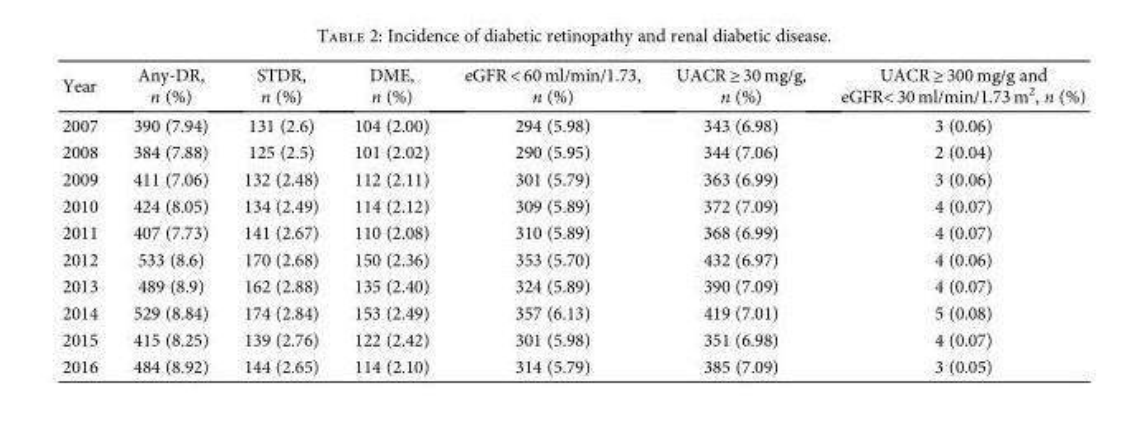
<table><thead><tr><td>Year</td><td>Any-DR, n (%)</td><td>STDR, n (%)</td><td>DME, n (%)</td><td>eGFR &lt; 60 ml/min/1.73, n (%)</td><td>UACR ≥ 30 mg/g, n (%)</td><td>UACR ≥ 300 mg/g and eGFR&lt; 30 ml/min/1.73 m<sup>2</sup>, n (%)</td></tr></thead><tbody><tr><td>2007</td><td>390 (7.94)</td><td>131 (2.6)</td><td>104 (2.00)</td><td>294 (5.98)</td><td>343 (6.98)</td><td>3 (0.06)</td></tr><tr><td>2008</td><td>384 (7.88)</td><td>125 (2.5)</td><td>101 (2.02)</td><td>290 (5.95)</td><td>344 (7.06)</td><td>2 (0.04)</td></tr><tr><td>2009</td><td>411 (7.06)</td><td>132 (2.48)</td><td>112 (2.11)</td><td>301 (5.79)</td><td>363 (6.99)</td><td>3 (0.06)</td></tr><tr><td>2010</td><td>424 (8.05)</td><td>134 (2.49)</td><td>114 (2.12)</td><td>309 (5.89)</td><td>372 (7.09)</td><td>4 (0.07)</td></tr><tr><td>2011</td><td>407 (7.73)</td><td>141 (2.67)</td><td>110 (2.08)</td><td>310 (5.89)</td><td>368 (6.99)</td><td>4 (0.07)</td></tr><tr><td>2012</td><td>533 (8.6)</td><td>170 (2.68)</td><td>150 (2.36)</td><td>353 (5.70)</td><td>432 (6.97)</td><td>4 (0.06)</td></tr><tr><td>2013</td><td>489 (8.9)</td><td>162 (2.88)</td><td>135 (2.40)</td><td>324 (5.89)</td><td>390 (7.09)</td><td>4 (0.07)</td></tr><tr><td>2014</td><td>529 (8.84)</td><td>174 (2.84)</td><td>153 (2.49)</td><td>357 (6.13)</td><td>419 (7.01)</td><td>5 (0.08)</td></tr><tr><td>2015</td><td>415 (8.25)</td><td>139 (2.76)</td><td>122 (2.42)</td><td>301 (5.98)</td><td>351 (6.98)</td><td>4 (0.07)</td></tr><tr><td>2016</td><td>484 (8.92)</td><td>144 (2.65)</td><td>114 (2.10)</td><td>314 (5.79)</td><td>385 (7.09)</td><td>3 (0.05)</td></tr></tbody></table>